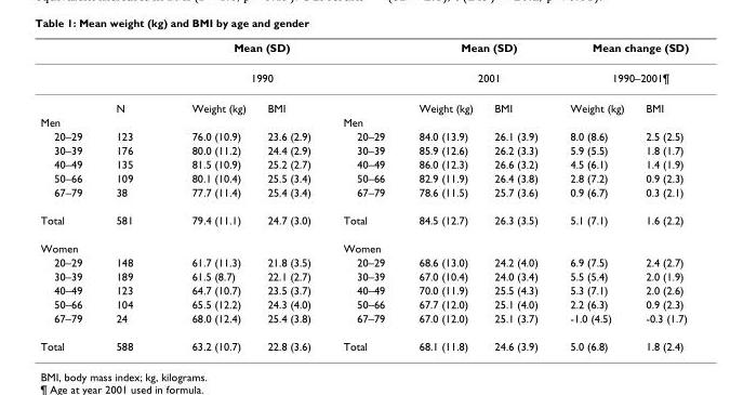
<table><thead><tr><td rowspan="3"></td><td rowspan="3">N</td><td rowspan="2" colspan="2">Mean (SD) 1990</td><td rowspan="3"></td><td rowspan="2" colspan="2">Mean (SD) 2001</td><td rowspan="2" colspan="2">Mean change (SD) 1990–2001¶</td></tr><tr></tr><tr><td>Weight (kg)</td><td>BMI</td><td>Weight (kg)</td><td>BMI</td><td>Weight (kg)</td><td>BMI</td></tr></thead><tbody><tr><td>Men</td><td></td><td></td><td></td><td>Men</td><td></td><td></td><td></td><td></td></tr><tr><td>20–29</td><td>123</td><td>76.0 (10.9)</td><td>23.6 (2.9)</td><td>20–29</td><td>84.0 (13.9)</td><td>26.1 (3.9)</td><td>8.0 (8.6)</td><td>2.5 (2.5)</td></tr><tr><td>30–39</td><td>176</td><td>80.0 (11.2)</td><td>24.4 (2.9)</td><td>30–39</td><td>85.9 (12.6)</td><td>26.2 (3.3)</td><td>5.9 (5.5)</td><td>1.8 (1.7)</td></tr><tr><td>40–49</td><td>135</td><td>81.5 (10.9)</td><td>25.2 (2.7)</td><td>40–49</td><td>86.0 (12.3)</td><td>26.6 (3.2)</td><td>4.5 (6.1)</td><td>1.4 (1.9)</td></tr><tr><td>50–66</td><td>109</td><td>80.1 (10.4)</td><td>25.5 (3.4)</td><td>50–66</td><td>82.9 (11.9)</td><td>26.4 (3.8)</td><td>2.8 (7.2)</td><td>0.9 (2.3)</td></tr><tr><td>67–79</td><td>38</td><td>77.7 (11.4)</td><td>25.4 (3.4)</td><td>67–79</td><td>78.6 (11.5)</td><td>25.7 (3.6)</td><td>0.9 (6.7)</td><td>0.3 (2.1)</td></tr><tr><td>Total</td><td>581</td><td>79.4 (11.1)</td><td>24.7 (3.0)</td><td>Total</td><td>84.5 (12.7)</td><td>26.3 (3.5)</td><td>5.1 (7.1)</td><td>1.6 (2.2)</td></tr><tr><td>Women</td><td></td><td></td><td></td><td>Women</td><td></td><td></td><td></td><td></td></tr><tr><td>20–29</td><td>148</td><td>61.7 (11.3)</td><td>21.8 (3.5)</td><td>20–29</td><td>68.6 (13.0)</td><td>24.2 (4.0)</td><td>6.9 (7.5)</td><td>2.4 (2.7)</td></tr><tr><td>30–39</td><td>189</td><td>61.5 (8.7)</td><td>22.1 (2.7)</td><td>30–39</td><td>67.0 (10.4)</td><td>24.0 (3.4)</td><td>5.5 (5.4)</td><td>2.0 (1.9)</td></tr><tr><td>40–49</td><td>123</td><td>64.7 (10.7)</td><td>23.5 (3.7)</td><td>40–49</td><td>70.0 (11.9)</td><td>25.5 (4.3)</td><td>5.3 (7.1)</td><td>2.0 (2.6)</td></tr><tr><td>50–66</td><td>104</td><td>65.5 (12.2)</td><td>24.3 (4.0)</td><td>50–66</td><td>67.7 (12.0)</td><td>25.1 (4.0)</td><td>2.2 (6.3)</td><td>0.9 (2.3)</td></tr><tr><td>67–79</td><td>24</td><td>68.0 (12.4)</td><td>25.4 (3.8)</td><td>67–79</td><td>67.0 (12.0)</td><td>25.1 (3.7)</td><td>-1.0 (4.5)</td><td>-0.3 (1.7)</td></tr><tr><td>Total</td><td>588</td><td>63.2 (10.7)</td><td>22.8 (3.6)</td><td>Total</td><td>68.1 (11.8)</td><td>24.6 (3.9)</td><td>5.0 (6.8)</td><td>1.8 (2.4)</td></tr></tbody></table>